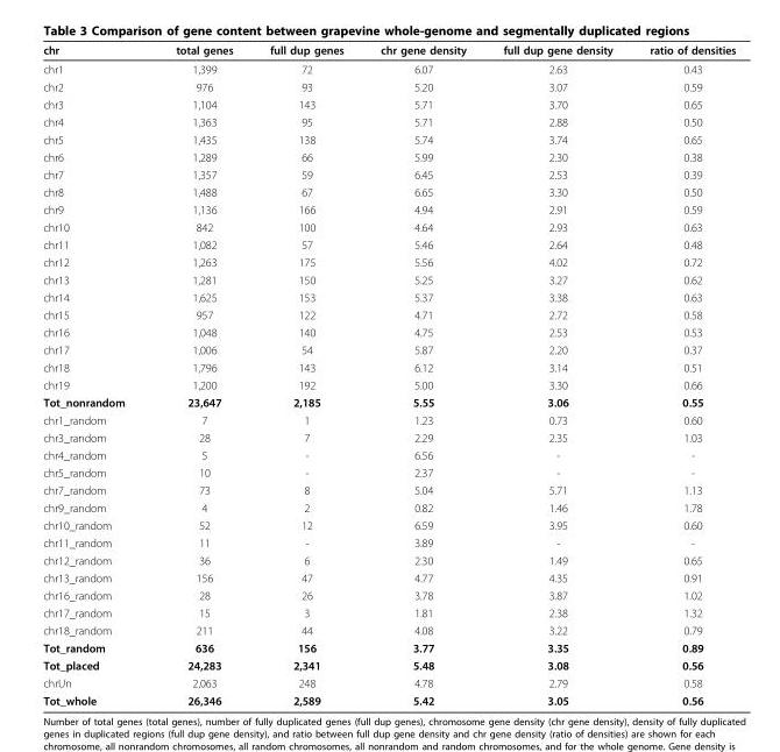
<table><thead><tr><td>chr</td><td>total genes</td><td>full dup genes</td><td>chr gene density</td><td>full dup gene density</td><td>ratio of densities</td></tr></thead><tbody><tr><td>chr1</td><td>1,399</td><td>72</td><td>6.07</td><td>2.63</td><td>0.43</td></tr><tr><td>chr2</td><td>976</td><td>93</td><td>5.20</td><td>3.07</td><td>0.59</td></tr><tr><td>chr3</td><td>1,104</td><td>143</td><td>5.71</td><td>3.70</td><td>0.65</td></tr><tr><td>chr4</td><td>1,363</td><td>95</td><td>5.71</td><td>2.88</td><td>0.50</td></tr><tr><td>chr5</td><td>1,435</td><td>138</td><td>5.74</td><td>3.74</td><td>0.65</td></tr><tr><td>chr6</td><td>1,289</td><td>66</td><td>5.99</td><td>2.30</td><td>0.38</td></tr><tr><td>chr7</td><td>1,357</td><td>59</td><td>6.45</td><td>2.53</td><td>0.39</td></tr><tr><td>chr8</td><td>1,488</td><td>67</td><td>6.65</td><td>3.30</td><td>0.50</td></tr><tr><td>chr9</td><td>1,136</td><td>166</td><td>4.94</td><td>2.91</td><td>0.59</td></tr><tr><td>chr10</td><td>842</td><td>100</td><td>4.64</td><td>2.93</td><td>0.63</td></tr><tr><td>chr11</td><td>1,082</td><td>57</td><td>5.46</td><td>2.64</td><td>0.48</td></tr><tr><td>chr12</td><td>1,263</td><td>175</td><td>5.56</td><td>4.02</td><td>0.72</td></tr><tr><td>chr13</td><td>1,281</td><td>150</td><td>5.25</td><td>3.27</td><td>0.62</td></tr><tr><td>chr14</td><td>1,625</td><td>153</td><td>5.37</td><td>3.38</td><td>0.63</td></tr><tr><td>chr15</td><td>957</td><td>122</td><td>4.71</td><td>2.72</td><td>0.58</td></tr><tr><td>chr16</td><td>1,048</td><td>140</td><td>4.75</td><td>2.53</td><td>0.53</td></tr><tr><td>chr17</td><td>1,006</td><td>54</td><td>5.87</td><td>2.20</td><td>0.37</td></tr><tr><td>chr18</td><td>1,796</td><td>143</td><td>6.12</td><td>3.14</td><td>0.51</td></tr><tr><td>chr19</td><td>1,200</td><td>192</td><td>5.00</td><td>3.30</td><td>0.66</td></tr><tr><td>Tot_nonrandom</td><td>23,647</td><td>2,185</td><td>5.55</td><td>3.06</td><td>0.55</td></tr><tr><td>chr1_random</td><td>7</td><td>1</td><td>1.23</td><td>0.73</td><td>0.60</td></tr><tr><td>chr3_random</td><td>28</td><td>7</td><td>2.29</td><td>2.35</td><td>1.03</td></tr><tr><td>chr4_random</td><td>5</td><td>-</td><td>6.56</td><td>-</td><td>-</td></tr><tr><td>chr5_random</td><td>10</td><td>-</td><td>2.37</td><td>-</td><td>-</td></tr><tr><td>chr7_random</td><td>73</td><td>8</td><td>5.04</td><td>5.71</td><td>1.13</td></tr><tr><td>chr9_random</td><td>4</td><td>2</td><td>0.82</td><td>1.46</td><td>1.78</td></tr><tr><td>chr10_random</td><td>52</td><td>12</td><td>6.59</td><td>3.95</td><td>0.60</td></tr><tr><td>chr11_random</td><td>11</td><td>-</td><td>3.89</td><td>-</td><td>-</td></tr><tr><td>chr12_random</td><td>36</td><td>6</td><td>2.30</td><td>1.49</td><td>0.65</td></tr><tr><td>chr13_random</td><td>156</td><td>47</td><td>4.77</td><td>4.35</td><td>0.91</td></tr><tr><td>chr16_random</td><td>28</td><td>26</td><td>3.78</td><td>3.87</td><td>1.02</td></tr><tr><td>chr17_random</td><td>15</td><td>3</td><td>1.81</td><td>2.38</td><td>1.32</td></tr><tr><td>chr18_random</td><td>211</td><td>44</td><td>4.08</td><td>3.22</td><td>0.79</td></tr><tr><td>Tot_random</td><td>636</td><td>156</td><td>3.77</td><td>3.35</td><td>0.89</td></tr><tr><td>Tot_placed</td><td>24,283</td><td>2,341</td><td>5.48</td><td>3.08</td><td>0.56</td></tr><tr><td>chrUn</td><td>2,063</td><td>248</td><td>4.78</td><td>2.79</td><td>0.58</td></tr><tr><td>Tot_whole</td><td>26,346</td><td>2,589</td><td>5.42</td><td>3.05</td><td>0.56</td></tr></tbody></table>